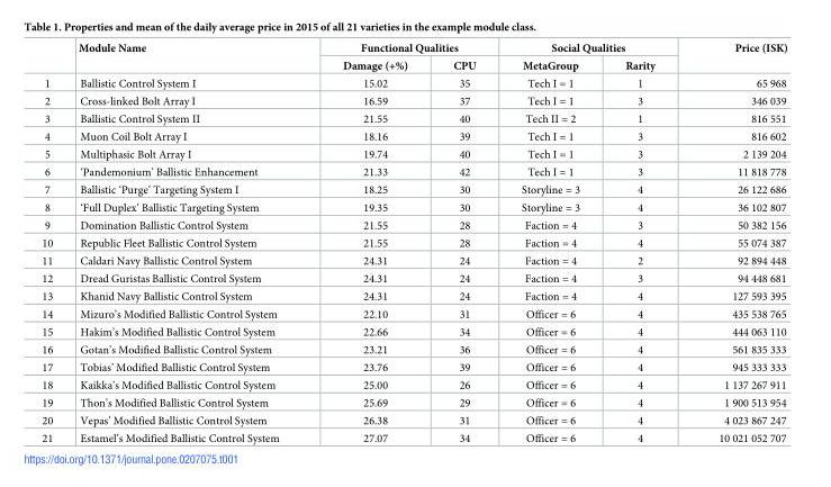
<table><thead><tr><td rowspan="2"></td><td rowspan="2">Module Name</td><td colspan="2">Functional Qualities</td><td colspan="2">Social Qualities</td><td rowspan="2">Price (ISK)</td></tr><tr><td>Damage (+%)</td><td>CPU</td><td>MetaGroup</td><td>Rarity</td></tr></thead><tbody><tr><td>1</td><td>Ballistic Control System I</td><td>15.02</td><td>35</td><td>Tech I = 1</td><td>1</td><td>65 968</td></tr><tr><td>2</td><td>Cross-linked Bolt Array I</td><td>16.59</td><td>37</td><td>Tech I = 1</td><td>3</td><td>346 039</td></tr><tr><td>3</td><td>Ballistic Control System II</td><td>21.55</td><td>40</td><td>Tech II = 2</td><td>1</td><td>816 551</td></tr><tr><td>4</td><td>Muon Coil Bolt Array I</td><td>18.16</td><td>39</td><td>Tech I = 1</td><td>3</td><td>816 602</td></tr><tr><td>5</td><td>Multiphasic Bolt Array I</td><td>19.74</td><td>40</td><td>Tech I = 1</td><td>3</td><td>2 139 204</td></tr><tr><td>6</td><td>‘Pandemonium’ Ballistic Enhancement</td><td>21.33</td><td>42</td><td>Tech I = 1</td><td>3</td><td>11 818 778</td></tr><tr><td>7</td><td>Ballistic ‘Purge’ Targeting System I</td><td>18.25</td><td>30</td><td>Storyline = 3</td><td>4</td><td>26 122 686</td></tr><tr><td>8</td><td>‘Full Duplex’ Ballistic Targeting System</td><td>19.35</td><td>30</td><td>Storyline = 3</td><td>4</td><td>36 102 807</td></tr><tr><td>9</td><td>Domination Ballistic Control System</td><td>21.55</td><td>28</td><td>Faction = 4</td><td>3</td><td>50 382 156</td></tr><tr><td>10</td><td>Republic Fleet Ballistic Control System</td><td>21.55</td><td>28</td><td>Faction = 4</td><td>4</td><td>55 074 387</td></tr><tr><td>11</td><td>Caldari Navy Ballistic Control System</td><td>24.31</td><td>24</td><td>Faction = 4</td><td>2</td><td>92 894 448</td></tr><tr><td>12</td><td>Dread Guristas Ballistic Control System</td><td>24.31</td><td>24</td><td>Faction = 4</td><td>3</td><td>94 448 681</td></tr><tr><td>13</td><td>Khanid Navy Ballistic Control System</td><td>24.31</td><td>24</td><td>Faction = 4</td><td>4</td><td>127 593 395</td></tr><tr><td>14</td><td>Mizuro’s Modified Ballistic Control System</td><td>22.10</td><td>31</td><td>Officer = 6</td><td>4</td><td>435 538 765</td></tr><tr><td>15</td><td>Hakim’s Modified Ballistic Control System</td><td>22.66</td><td>34</td><td>Officer = 6</td><td>4</td><td>444 063 110</td></tr><tr><td>16</td><td>Gotan’s Modified Ballistic Control System</td><td>23.21</td><td>36</td><td>Officer = 6</td><td>4</td><td>561 835 333</td></tr><tr><td>17</td><td>Tobias’ Modified Ballistic Control System</td><td>23.76</td><td>39</td><td>Officer = 6</td><td>4</td><td>945 333 333</td></tr><tr><td>18</td><td>Kaikka’s Modified Ballistic Control System</td><td>25.00</td><td>26</td><td>Officer = 6</td><td>4</td><td>1 137 267 911</td></tr><tr><td>19</td><td>Thon’s Modified Ballistic Control System</td><td>25.69</td><td>29</td><td>Officer = 6</td><td>4</td><td>1 900 513 954</td></tr><tr><td>20</td><td>Vepas’ Modified Ballistic Control System</td><td>26.38</td><td>31</td><td>Officer = 6</td><td>4</td><td>4 023 867 247</td></tr><tr><td>21</td><td>Estamel’s Modified Ballistic Control System</td><td>27.07</td><td>34</td><td>Officer = 6</td><td>4</td><td>10 021 052 707</td></tr></tbody></table>